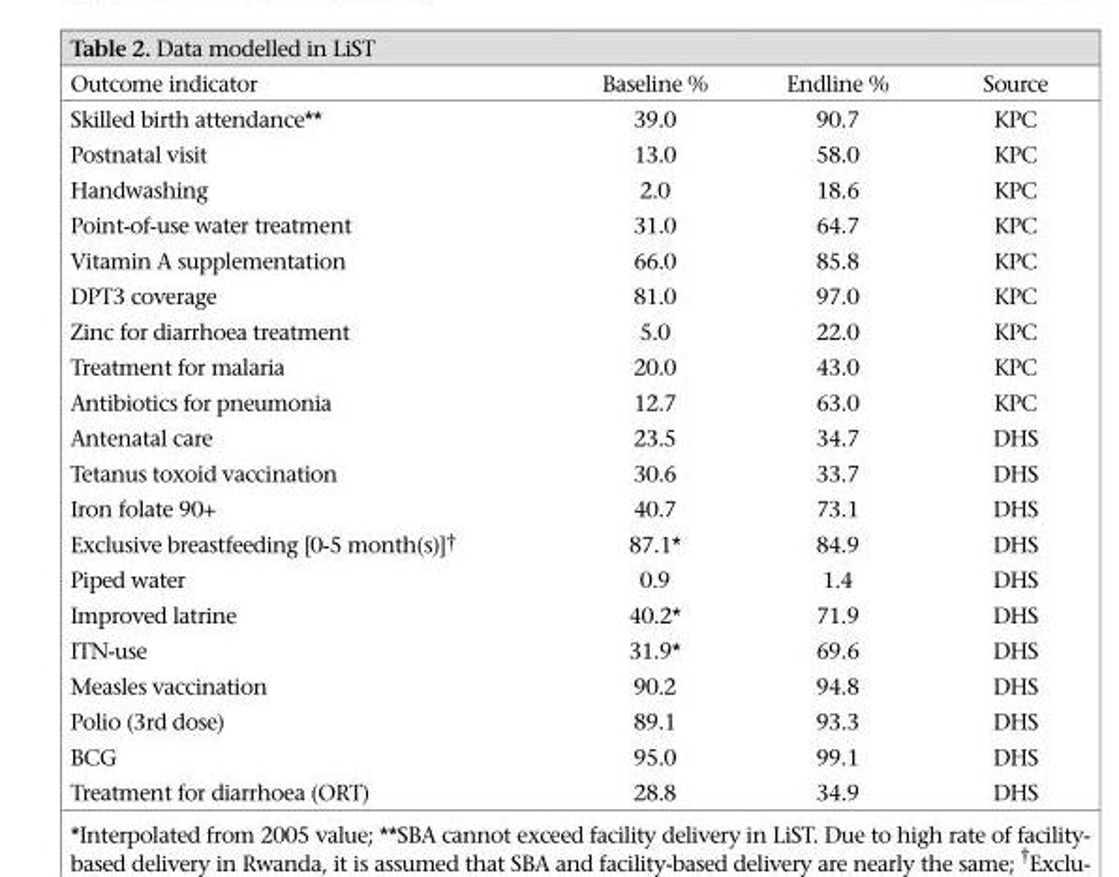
<table><thead><tr><td>Outcome indicator</td><td>Baseline %</td><td>Endline %</td><td>Source</td></tr></thead><tbody><tr><td>Skilled birth attendance**</td><td>39.0</td><td>90.7</td><td>KPC</td></tr><tr><td>Postnatal visit</td><td>13.0</td><td>58.0</td><td>KPC</td></tr><tr><td>Handwashing</td><td>2.0</td><td>18.6</td><td>KPC</td></tr><tr><td>Point-of-use water treatment</td><td>31.0</td><td>64.7</td><td>KPC</td></tr><tr><td>Vitamin A supplementation</td><td>66.0</td><td>85.8</td><td>KPC</td></tr><tr><td>DPT3 coverage</td><td>81.0</td><td>97.0</td><td>KPC</td></tr><tr><td>Zinc for diarrhoea treatment</td><td>5.0</td><td>22.0</td><td>KPC</td></tr><tr><td>Treatment for malaria</td><td>20.0</td><td>43.0</td><td>KPC</td></tr><tr><td>Antibiotics for pneumonia</td><td>12.7</td><td>63.0</td><td>KPC</td></tr><tr><td>Antenatal care</td><td>23.5</td><td>34.7</td><td>DHS</td></tr><tr><td>Tetanus toxoid vaccination</td><td>30.6</td><td>33.7</td><td>DHS</td></tr><tr><td>Iron folate 90+</td><td>40.7</td><td>73.1</td><td>DHS</td></tr><tr><td>Exclusive breastfeeding [0-5 month(s)]†</td><td>87.1*</td><td>84.9</td><td>DHS</td></tr><tr><td>Piped water</td><td>0.9</td><td>1.4</td><td>DHS</td></tr><tr><td>Improved latrine</td><td>40.2*</td><td>71.9</td><td>DHS</td></tr><tr><td>ITN-use</td><td>31.9*</td><td>69.6</td><td>DHS</td></tr><tr><td>Measles vaccination</td><td>90.2</td><td>94.8</td><td>DHS</td></tr><tr><td>Polio (3rd dose)</td><td>89.1</td><td>93.3</td><td>DHS</td></tr><tr><td>BCG</td><td>95.0</td><td>99.1</td><td>DHS</td></tr><tr><td>Treatment for diarrhoea (ORT)</td><td>28.8</td><td>34.9</td><td>DHS</td></tr></tbody></table>